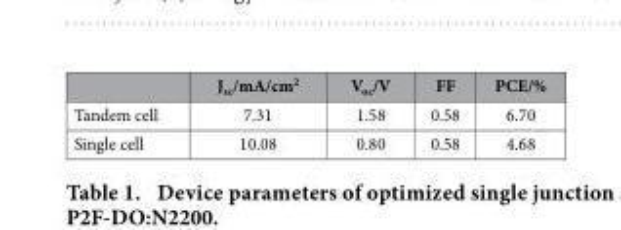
<table><thead><tr><td></td><td>J<sub>sc</sub>/mA/cm<sup>2</sup></td><td>V<sub>oc</sub>/V</td><td>FF</td><td>PCE/%</td></tr></thead><tbody><tr><td>Tandem cell</td><td>7.31</td><td>1.58</td><td>0.58</td><td>6.70</td></tr><tr><td>Single cell</td><td>10.08</td><td>0.80</td><td>0.58</td><td>4.68</td></tr></tbody></table>